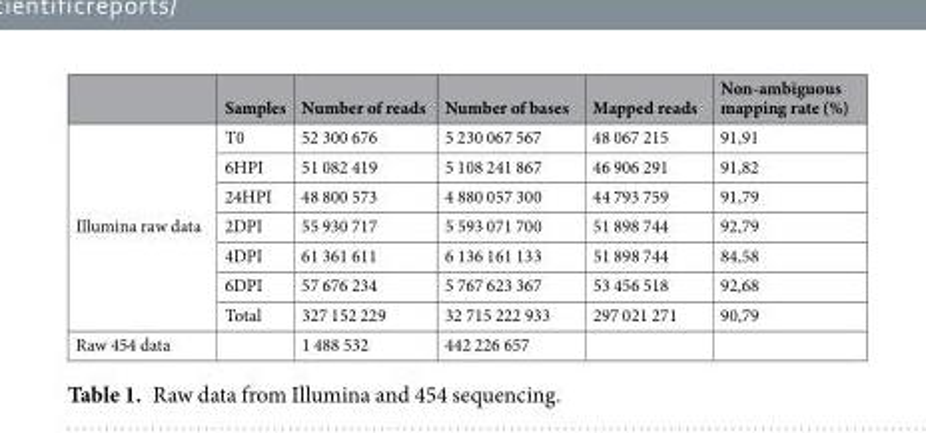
<table><thead><tr><td></td><td>Samples</td><td>Number of reads</td><td>Number of bases</td><td>Mapped reads</td><td>Non-ambiguous mapping rate (%)</td></tr></thead><tbody><tr><td rowspan="7">Illumina raw data</td><td>T0</td><td>52 300 676</td><td>5 230 067 567</td><td>48 067 215</td><td>91,91</td></tr><tr><td>6HPI</td><td>51 082 419</td><td>5 108 241 867</td><td>46 906 291</td><td>91,82</td></tr><tr><td>24HPI</td><td>48 800 573</td><td>4 880 057 300</td><td>44 793 759</td><td>91,79</td></tr><tr><td>2DPI</td><td>55 930 717</td><td>5 593 071 700</td><td>51 898 744</td><td>92,79</td></tr><tr><td>4DPI</td><td>61 361 611</td><td>6 136 161 133</td><td>51 898 744</td><td>84,58</td></tr><tr><td>6DPI</td><td>57 676 234</td><td>5 767 623 367</td><td>53 456 518</td><td>92,68</td></tr><tr><td>Total</td><td>327 152 229</td><td>32 715 222 933</td><td>297 021 271</td><td>90,79</td></tr><tr><td>Raw 454 data</td><td></td><td>1 488 532</td><td>442 226 657</td><td></td><td></td></tr></tbody></table>